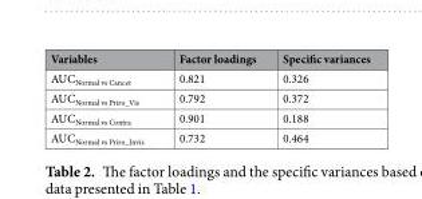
<table><thead><tr><td>Variables</td><td>Factor loadings</td><td>Specific variances</td></tr></thead><tbody><tr><td>AUC<sub>Normal vs Cancer</sub></td><td>0.821</td><td>0.326</td></tr><tr><td>AUC<sub>Normal vs Priro_Vis</sub></td><td>0.792</td><td>0.372</td></tr><tr><td>AUC<sub>Normal vs Contra</sub></td><td>0.901</td><td>0.188</td></tr><tr><td>AUC<sub>Normal vs Priro_Invis</sub></td><td>0.732</td><td>0.464</td></tr></tbody></table>